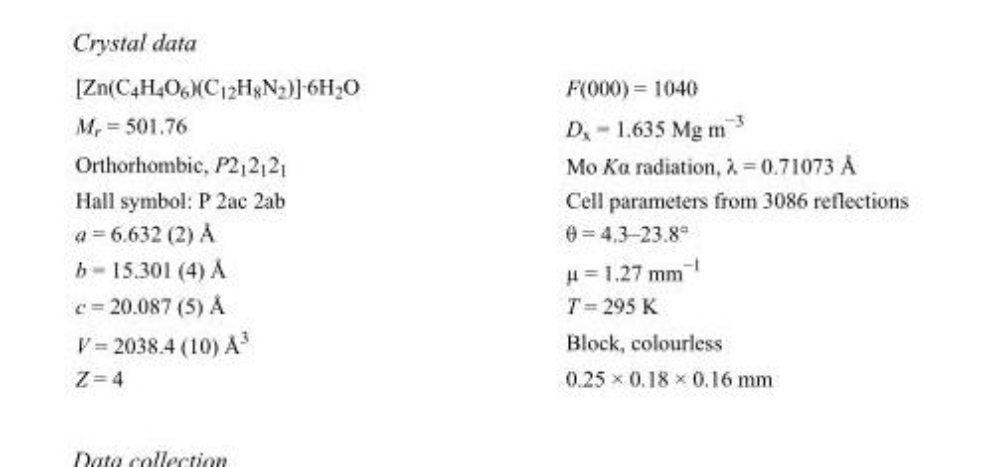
<table><tbody><tr><td>[Zn(C<sub>4</sub>H<sub>4</sub>O<sub>6</sub>)(C<sub>12</sub>H<sub>8</sub>N<sub>2</sub>)]·6H<sub>2</sub>O</td><td>F(000) = 1040</td></tr><tr><td>M<sub>r</sub> = 501.76</td><td>D<sub>x</sub> = 1.635 Mg m<sup>−3</sup></td></tr><tr><td>Orthorhombic, P2<sub>1</sub>2<sub>1</sub>2<sub>1</sub></td><td>Mo Kα radiation, λ = 0.71073 Å</td></tr><tr><td>Hall symbol: P 2ac 2ab</td><td>Cell parameters from 3086 reflections</td></tr><tr><td>a = 6.632 (2) Å</td><td>θ = 4.3–23.8°</td></tr><tr><td>b = 15.301 (4) Å</td><td>µ = 1.27 mm<sup>−1</sup></td></tr><tr><td>c = 20.087 (5) Å</td><td>T = 295 K</td></tr><tr><td>V = 2038.4 (10) Å<sup>3</sup></td><td>Block, colourless</td></tr><tr><td>Z = 4</td><td>0.25 × 0.18 × 0.16 mm</td></tr></tbody></table>